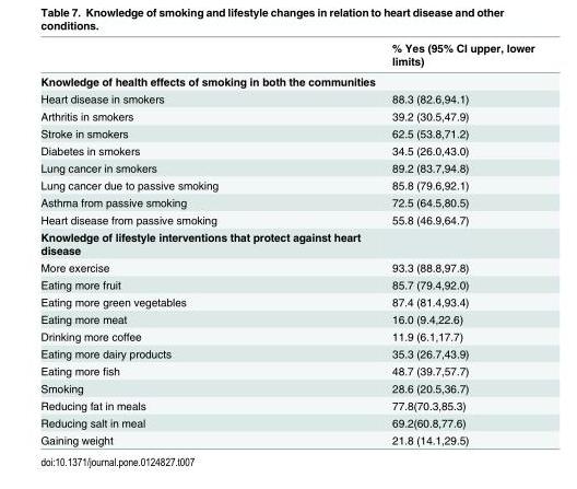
<table><thead><tr><td></td><td>% Yes (95% CI upper, lower limits)</td></tr></thead><tbody><tr><td colspan="2">Knowledge of health effects of smoking in both the communities</td></tr><tr><td>Heart disease in smokers</td><td>88.3 (82.6,94.1)</td></tr><tr><td>Arthritis in smokers</td><td>39.2 (30.5,47.9)</td></tr><tr><td>Stroke in smokers</td><td>62.5 (53.8,71.2)</td></tr><tr><td>Diabetes in smokers</td><td>34.5 (26.0,43.0)</td></tr><tr><td>Lung cancer in smokers</td><td>89.2 (83.7,94.8)</td></tr><tr><td>Lung cancer due to passive smoking</td><td>85.8 (79.6,92.1)</td></tr><tr><td>Asthma from passive smoking</td><td>72.5 (64.5,80.5)</td></tr><tr><td>Heart disease from passive smoking</td><td>55.8 (46.9,64.7)</td></tr><tr><td colspan="2">Knowledge of lifestyle interventions that protect against heart disease</td></tr><tr><td>More exercise</td><td>93.3 (88.8,97.8)</td></tr><tr><td>Eating more fruit</td><td>85.7 (79.4,92.0)</td></tr><tr><td>Eating more green vegetables</td><td>87.4 (81.4,93.4)</td></tr><tr><td>Eating more meat</td><td>16.0 (9.4,22.6)</td></tr><tr><td>Drinking more coffee</td><td>11.9 (6.1,17.7)</td></tr><tr><td>Eating more dairy products</td><td>35.3 (26.7,43.9)</td></tr><tr><td>Eating more fish</td><td>48.7 (39.7,57.7)</td></tr><tr><td>Smoking</td><td>28.6 (20.5,36.7)</td></tr><tr><td>Reducing fat in meals</td><td>77.8(70.3,85.3)</td></tr><tr><td>Reducing salt in meal</td><td>69.2(60.8,77.6)</td></tr><tr><td>Gaining weight</td><td>21.8 (14.1,29.5)</td></tr></tbody></table>